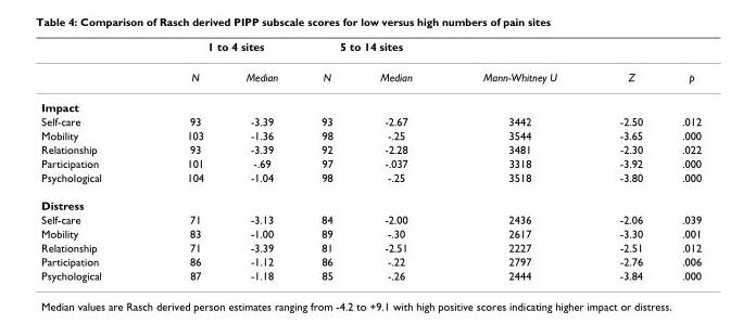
<table><thead><tr><td rowspan="2"></td><td colspan="2">1 to 4 sites</td><td colspan="2">5 to 14 sites</td><td rowspan="2">Mann-Whitney U</td><td rowspan="2">Z</td><td rowspan="2">p</td></tr><tr><td>N</td><td>Median</td><td>N</td><td>Median</td></tr></thead><tbody><tr><td colspan="8">Impact</td></tr><tr><td>Self-care</td><td>93</td><td>-3.39</td><td>93</td><td>-2.67</td><td>3442</td><td>-2.50</td><td>.012</td></tr><tr><td>Mobility</td><td>103</td><td>-1.36</td><td>98</td><td>-.25</td><td>3544</td><td>-3.65</td><td>.000</td></tr><tr><td>Relationship</td><td>93</td><td>-3.39</td><td>92</td><td>-2.28</td><td>3481</td><td>-2.30</td><td>.022</td></tr><tr><td>Participation</td><td>101</td><td>-.69</td><td>97</td><td>-.037</td><td>3318</td><td>-3.92</td><td>.000</td></tr><tr><td>Psychological</td><td>104</td><td>-1.04</td><td>98</td><td>-.25</td><td>3518</td><td>-3.80</td><td>.000</td></tr><tr><td colspan="8">Distress</td></tr><tr><td>Self-care</td><td>71</td><td>-3.13</td><td>84</td><td>-2.00</td><td>2436</td><td>-2.06</td><td>.039</td></tr><tr><td>Mobility</td><td>83</td><td>-1.00</td><td>89</td><td>-.30</td><td>2617</td><td>-3.30</td><td>.001</td></tr><tr><td>Relationship</td><td>71</td><td>-3.39</td><td>81</td><td>-2.51</td><td>2227</td><td>-2.51</td><td>.012</td></tr><tr><td>Participation</td><td>86</td><td>-1.12</td><td>86</td><td>-.22</td><td>2797</td><td>-2.76</td><td>.006</td></tr><tr><td>Psychological</td><td>87</td><td>-1.18</td><td>85</td><td>-.26</td><td>2444</td><td>-3.84</td><td>.000</td></tr></tbody></table>